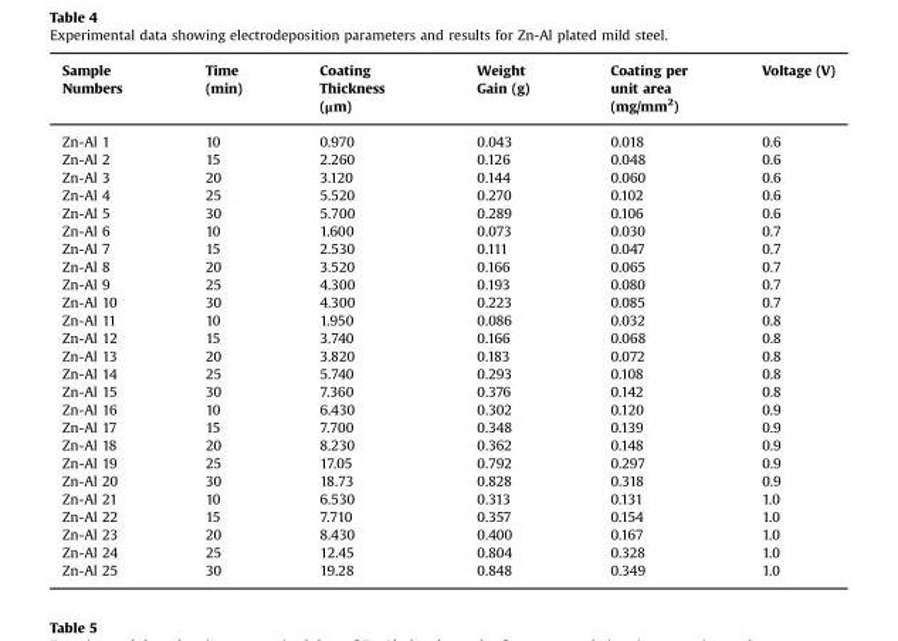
<table><thead><tr><td>Sample Numbers</td><td>Time (min)</td><td>Coating Thickness (μm)</td><td>Weight Gain (g)</td><td>Coating per unit area (mg/mm<sup>2</sup>)</td><td>Voltage (V)</td></tr></thead><tbody><tr><td>Zn-Al 1</td><td>10</td><td>0.970</td><td>0.043</td><td>0.018</td><td>0.6</td></tr><tr><td>Zn-Al 2</td><td>15</td><td>2.260</td><td>0.126</td><td>0.048</td><td>0.6</td></tr><tr><td>Zn-Al 3</td><td>20</td><td>3.120</td><td>0.144</td><td>0.060</td><td>0.6</td></tr><tr><td>Zn-Al 4</td><td>25</td><td>5.520</td><td>0.270</td><td>0.102</td><td>0.6</td></tr><tr><td>Zn-Al 5</td><td>30</td><td>5.700</td><td>0.289</td><td>0.106</td><td>0.6</td></tr><tr><td>Zn-Al 6</td><td>10</td><td>1.600</td><td>0.073</td><td>0.030</td><td>0.7</td></tr><tr><td>Zn-Al 7</td><td>15</td><td>2.530</td><td>0.111</td><td>0.047</td><td>0.7</td></tr><tr><td>Zn-Al 8</td><td>20</td><td>3.520</td><td>0.166</td><td>0.065</td><td>0.7</td></tr><tr><td>Zn-Al 9</td><td>25</td><td>4.300</td><td>0.193</td><td>0.080</td><td>0.7</td></tr><tr><td>Zn-Al 10</td><td>30</td><td>4.300</td><td>0.223</td><td>0.085</td><td>0.7</td></tr><tr><td>Zn-Al 11</td><td>10</td><td>1.950</td><td>0.086</td><td>0.032</td><td>0.8</td></tr><tr><td>Zn-Al 12</td><td>15</td><td>3.740</td><td>0.166</td><td>0.068</td><td>0.8</td></tr><tr><td>Zn-Al 13</td><td>20</td><td>3.820</td><td>0.183</td><td>0.072</td><td>0.8</td></tr><tr><td>Zn-Al 14</td><td>25</td><td>5.740</td><td>0.293</td><td>0.108</td><td>0.8</td></tr><tr><td>Zn-Al 15</td><td>30</td><td>7.360</td><td>0.376</td><td>0.142</td><td>0.8</td></tr><tr><td>Zn-Al 16</td><td>10</td><td>6.430</td><td>0.302</td><td>0.120</td><td>0.9</td></tr><tr><td>Zn-Al 17</td><td>15</td><td>7.700</td><td>0.348</td><td>0.139</td><td>0.9</td></tr><tr><td>Zn-Al 18</td><td>20</td><td>8.230</td><td>0.362</td><td>0.148</td><td>0.9</td></tr><tr><td>Zn-Al 19</td><td>25</td><td>17.05</td><td>0.792</td><td>0.297</td><td>0.9</td></tr><tr><td>Zn-Al 20</td><td>30</td><td>18.73</td><td>0.828</td><td>0.318</td><td>0.9</td></tr><tr><td>Zn-Al 21</td><td>10</td><td>6.530</td><td>0.313</td><td>0.131</td><td>1.0</td></tr><tr><td>Zn-Al 22</td><td>15</td><td>7.710</td><td>0.357</td><td>0.154</td><td>1.0</td></tr><tr><td>Zn-Al 23</td><td>20</td><td>8.430</td><td>0.400</td><td>0.167</td><td>1.0</td></tr><tr><td>Zn-Al 24</td><td>25</td><td>12.45</td><td>0.804</td><td>0.328</td><td>1.0</td></tr><tr><td>Zn-Al 25</td><td>30</td><td>19.28</td><td>0.848</td><td>0.349</td><td>1.0</td></tr></tbody></table>